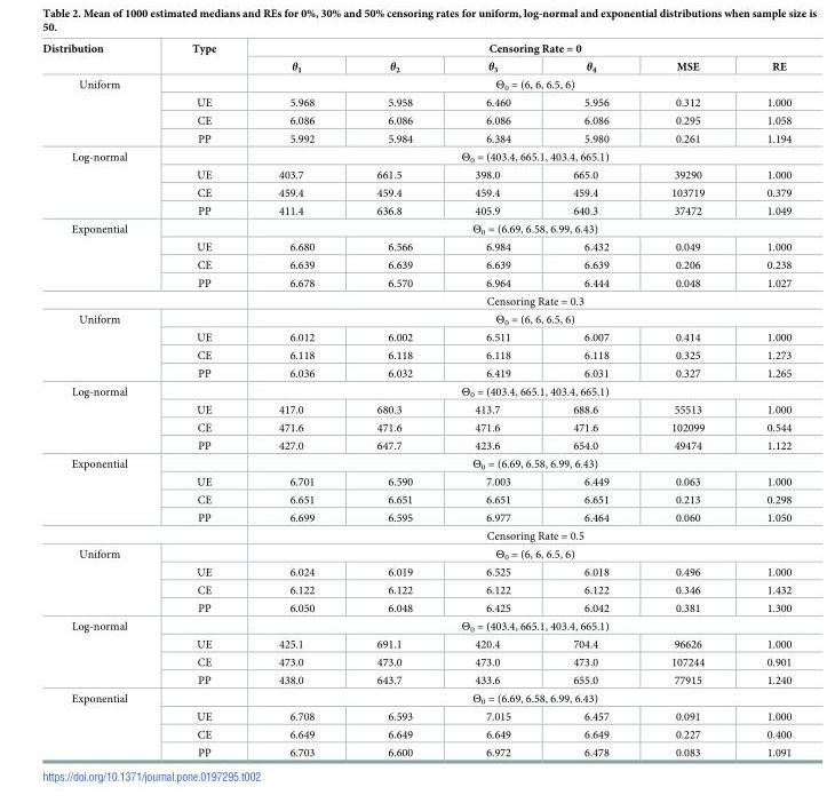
<table><thead><tr><td rowspan="2">Distribution</td><td rowspan="2">Type</td><td colspan="6">Censoring Rate = 0</td></tr><tr><td>θ<sub>1</sub></td><td>θ<sub>2</sub></td><td>θ<sub>3</sub></td><td>θ<sub>4</sub></td><td>MSE</td><td>RE</td></tr></thead><tbody><tr><td rowspan="4">Uniform</td><td></td><td colspan="6">Θ<sub>0</sub> = (6, 6, 6.5, 6)</td></tr><tr><td>UE</td><td>5.968</td><td>5.958</td><td>6.460</td><td>5.956</td><td>0.312</td><td>1.000</td></tr><tr><td>CE</td><td>6.086</td><td>6.086</td><td>6.086</td><td>6.086</td><td>0.295</td><td>1.058</td></tr><tr><td>PP</td><td>5.992</td><td>5.984</td><td>6.384</td><td>5.980</td><td>0.261</td><td>1.194</td></tr><tr><td rowspan="4">Log-normal</td><td></td><td colspan="6">Θ<sub>0</sub> = (403.4, 665.1, 403.4, 665.1)</td></tr><tr><td>UE</td><td>403.7</td><td>661.5</td><td>398.0</td><td>665.0</td><td>39290</td><td>1.000</td></tr><tr><td>CE</td><td>459.4</td><td>459.4</td><td>459.4</td><td>459.4</td><td>103719</td><td>0.379</td></tr><tr><td>PP</td><td>411.4</td><td>636.8</td><td>405.9</td><td>640.3</td><td>37472</td><td>1.049</td></tr><tr><td rowspan="4">Exponential</td><td></td><td colspan="6">Θ<sub>0</sub> = (6.69, 6.58, 6.99, 6.43)</td></tr><tr><td>UE</td><td>6.680</td><td>6.566</td><td>6.984</td><td>6.432</td><td>0.049</td><td>1.000</td></tr><tr><td>CE</td><td>6.639</td><td>6.639</td><td>6.639</td><td>6.639</td><td>0.206</td><td>0.238</td></tr><tr><td>PP</td><td>6.678</td><td>6.570</td><td>6.964</td><td>6.444</td><td>0.048</td><td>1.027</td></tr><tr><td colspan="2"></td><td colspan="6">Censoring Rate = 0.3</td></tr><tr><td rowspan="4">Uniform</td><td></td><td colspan="6">Θ<sub>0</sub> = (6, 6, 6.5, 6)</td></tr><tr><td>UE</td><td>6.012</td><td>6.002</td><td>6.511</td><td>6.007</td><td>0.414</td><td>1.000</td></tr><tr><td>CE</td><td>6.118</td><td>6.118</td><td>6.118</td><td>6.118</td><td>0.325</td><td>1.273</td></tr><tr><td>PP</td><td>6.036</td><td>6.032</td><td>6.419</td><td>6.031</td><td>0.327</td><td>1.265</td></tr><tr><td rowspan="4">Log-normal</td><td></td><td colspan="6">Θ<sub>0</sub> = (403.4, 665.1, 403.4, 665.1)</td></tr><tr><td>UE</td><td>417.0</td><td>680.3</td><td>413.7</td><td>688.6</td><td>55513</td><td>1.000</td></tr><tr><td>CE</td><td>471.6</td><td>471.6</td><td>471.6</td><td>471.6</td><td>102099</td><td>0.544</td></tr><tr><td>PP</td><td>427.0</td><td>647.7</td><td>423.6</td><td>654.0</td><td>49474</td><td>1.122</td></tr><tr><td rowspan="4">Exponential</td><td></td><td colspan="6">Θ<sub>0</sub> = (6.69, 6.58, 6.99, 6.43)</td></tr><tr><td>UE</td><td>6.701</td><td>6.590</td><td>7.003</td><td>6.449</td><td>0.063</td><td>1.000</td></tr><tr><td>CE</td><td>6.651</td><td>6.651</td><td>6.651</td><td>6.651</td><td>0.213</td><td>0.298</td></tr><tr><td>PP</td><td>6.699</td><td>6.595</td><td>6.977</td><td>6.464</td><td>0.060</td><td>1.050</td></tr><tr><td colspan="2"></td><td colspan="6">Censoring Rate = 0.5</td></tr><tr><td rowspan="4">Uniform</td><td></td><td colspan="6">Θ<sub>0</sub> = (6, 6, 6.5, 6)</td></tr><tr><td>UE</td><td>6.024</td><td>6.019</td><td>6.525</td><td>6.018</td><td>0.496</td><td>1.000</td></tr><tr><td>CE</td><td>6.122</td><td>6.122</td><td>6.122</td><td>6.122</td><td>0.346</td><td>1.432</td></tr><tr><td>PP</td><td>6.050</td><td>6.048</td><td>6.425</td><td>6.042</td><td>0.381</td><td>1.300</td></tr><tr><td rowspan="4">Log-normal</td><td></td><td colspan="6">Θ<sub>0</sub> = (403.4, 665.1, 403.4, 665.1)</td></tr><tr><td>UE</td><td>425.1</td><td>691.1</td><td>420.4</td><td>704.4</td><td>96626</td><td>1.000</td></tr><tr><td>CE</td><td>473.0</td><td>473.0</td><td>473.0</td><td>473.0</td><td>107244</td><td>0.901</td></tr><tr><td>PP</td><td>438.0</td><td>643.7</td><td>433.6</td><td>655.0</td><td>77915</td><td>1.240</td></tr><tr><td rowspan="4">Exponential</td><td></td><td colspan="6">Θ<sub>0</sub> = (6.69, 6.58, 6.99, 6.43)</td></tr><tr><td>UE</td><td>6.708</td><td>6.593</td><td>7.015</td><td>6.457</td><td>0.091</td><td>1.000</td></tr><tr><td>CE</td><td>6.649</td><td>6.649</td><td>6.649</td><td>6.649</td><td>0.227</td><td>0.400</td></tr><tr><td>PP</td><td>6.703</td><td>6.600</td><td>6.972</td><td>6.478</td><td>0.083</td><td>1.091</td></tr></tbody></table>